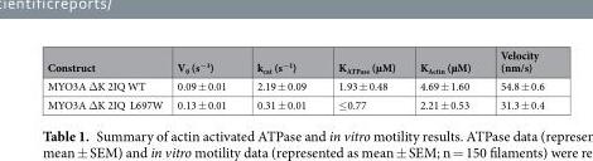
<table><thead><tr><td>Construct</td><td>V<sub>0</sub> (s<sup>−1</sup>)</td><td>k<sub>cat</sub> (s<sup>−1</sup>)</td><td>K<sub>ATPase</sub> (µM)</td><td>K<sub>Actin</sub> (µM)</td><td>Velocity (nm/s)</td></tr></thead><tbody><tr><td>MYO3A ΔK 2IQ WT</td><td>0.09 ± 0.01</td><td>2.19 ± 0.09</td><td>1.93 ± 0.48</td><td>4.69 ± 1.60</td><td>54.8 ± 0.6</td></tr><tr><td>MYO3A ΔK 2IQ L697W</td><td>0.13 ± 0.01</td><td>0.31 ± 0.01</td><td>≤0.77</td><td>2.21 ± 0.53</td><td>31.3 ± 0.4</td></tr></tbody></table>